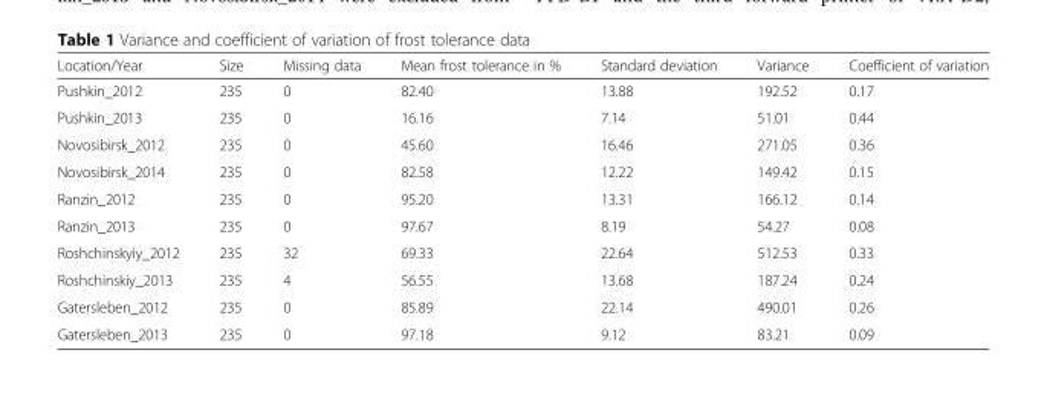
<table><thead><tr><td>Location/Year</td><td>Size</td><td>Missing data</td><td>Mean frost tolerance in %</td><td>Standard deviation</td><td>Variance</td><td>Coefficient of variation</td></tr></thead><tbody><tr><td>Pushkin_2012</td><td>235</td><td>0</td><td>82.40</td><td>13.88</td><td>192.52</td><td>0.17</td></tr><tr><td>Pushkin_2013</td><td>235</td><td>0</td><td>16.16</td><td>7.14</td><td>51.01</td><td>0.44</td></tr><tr><td>Novosibirsk_2012</td><td>235</td><td>0</td><td>45.60</td><td>16.46</td><td>271.05</td><td>0.36</td></tr><tr><td>Novosibirsk_2014</td><td>235</td><td>0</td><td>82.58</td><td>12.22</td><td>149.42</td><td>0.15</td></tr><tr><td>Ranzin_2012</td><td>235</td><td>0</td><td>95.20</td><td>13.31</td><td>166.12</td><td>0.14</td></tr><tr><td>Ranzin_2013</td><td>235</td><td>0</td><td>97.67</td><td>8.19</td><td>54.27</td><td>0.08</td></tr><tr><td>Roshchinskyiy_2012</td><td>235</td><td>32</td><td>69.33</td><td>22.64</td><td>512.53</td><td>0.33</td></tr><tr><td>Roshchinskiy_2013</td><td>235</td><td>4</td><td>56.55</td><td>13.68</td><td>187.24</td><td>0.24</td></tr><tr><td>Gatersleben_2012</td><td>235</td><td>0</td><td>85.89</td><td>22.14</td><td>490.01</td><td>0.26</td></tr><tr><td>Gatersleben_2013</td><td>235</td><td>0</td><td>97.18</td><td>9.12</td><td>83.21</td><td>0.09</td></tr></tbody></table>